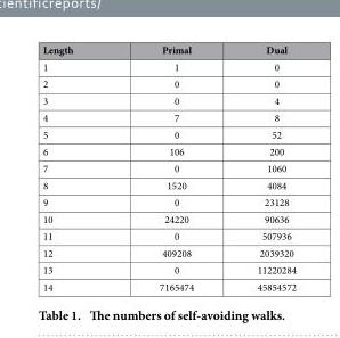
<table><thead><tr><td>Length</td><td>Primal</td><td>Dual</td></tr></thead><tbody><tr><td>1</td><td>1</td><td>0</td></tr><tr><td>2</td><td>0</td><td>0</td></tr><tr><td>3</td><td>0</td><td>4</td></tr><tr><td>4</td><td>7</td><td>8</td></tr><tr><td>5</td><td>0</td><td>52</td></tr><tr><td>6</td><td>106</td><td>200</td></tr><tr><td>7</td><td>0</td><td>1060</td></tr><tr><td>8</td><td>1520</td><td>4084</td></tr><tr><td>9</td><td>0</td><td>23128</td></tr><tr><td>10</td><td>24220</td><td>90636</td></tr><tr><td>11</td><td>0</td><td>507936</td></tr><tr><td>12</td><td>409208</td><td>2039320</td></tr><tr><td>13</td><td>0</td><td>11220284</td></tr><tr><td>14</td><td>7165474</td><td>45854572</td></tr></tbody></table>